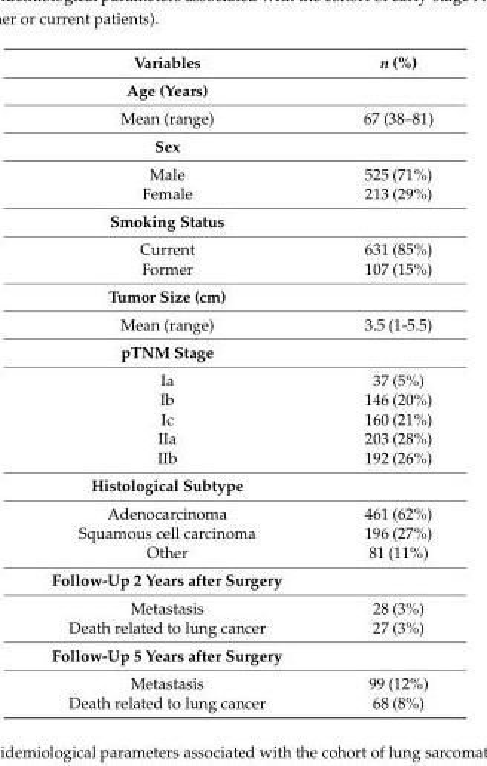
<table><thead><tr><td>Variables</td><td>n (%)</td></tr></thead><tbody><tr><td colspan="2">Age (Years)</td></tr><tr><td>Mean (range)</td><td>67 (38–81)</td></tr><tr><td colspan="2">Sex</td></tr><tr><td>Male</td><td>525 (71%)</td></tr><tr><td>Female</td><td>213 (29%)</td></tr><tr><td colspan="2">Smoking Status</td></tr><tr><td>Current</td><td>631 (85%)</td></tr><tr><td>Former</td><td>107 (15%)</td></tr><tr><td colspan="2">Tumor Size (cm)</td></tr><tr><td>Mean (range)</td><td>3.5 (1-5.5)</td></tr><tr><td colspan="2">pTNM Stage</td></tr><tr><td>Ia</td><td>37 (5%)</td></tr><tr><td>Ib</td><td>146 (20%)</td></tr><tr><td>Ic</td><td>160 (21%)</td></tr><tr><td>IIa</td><td>203 (28%)</td></tr><tr><td>IIb</td><td>192 (26%)</td></tr><tr><td colspan="2">Histological Subtype</td></tr><tr><td>Adenocarcinoma</td><td>461 (62%)</td></tr><tr><td>Squamous cell carcinoma</td><td>196 (27%)</td></tr><tr><td>Other</td><td>81 (11%)</td></tr><tr><td colspan="2">Follow-Up 2 Years after Surgery</td></tr><tr><td>Metastasis</td><td>28 (3%)</td></tr><tr><td>Death related to lung cancer</td><td>27 (3%)</td></tr><tr><td colspan="2">Follow-Up 5 Years after Surgery</td></tr><tr><td>Metastasis</td><td>99 (12%)</td></tr><tr><td>Death related to lung cancer</td><td>68 (8%)</td></tr></tbody></table>